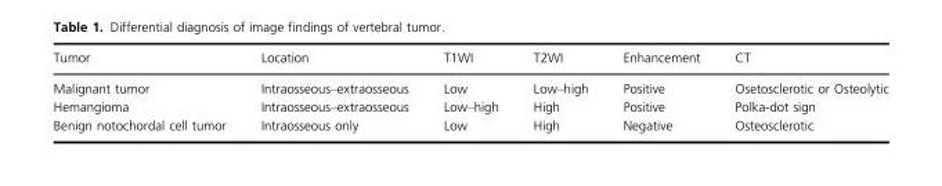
<table><thead><tr><td>Tumor</td><td>Location</td><td>T1WI</td><td>T2WI</td><td>Enhancement</td><td>CT</td></tr></thead><tbody><tr><td>Malignant tumor</td><td>Intraosseous–extraosseous</td><td>Low</td><td>Low–high</td><td>Positive</td><td>Osetosclerotic or Osteolytic</td></tr><tr><td>Hemangioma</td><td>Intraosseous–extraosseous</td><td>Low–high</td><td>High</td><td>Positive</td><td>Polka-dot sign</td></tr><tr><td>Benign notochordal cell tumor</td><td>Intraosseous only</td><td>Low</td><td>High</td><td>Negative</td><td>Osteosclerotic</td></tr></tbody></table>